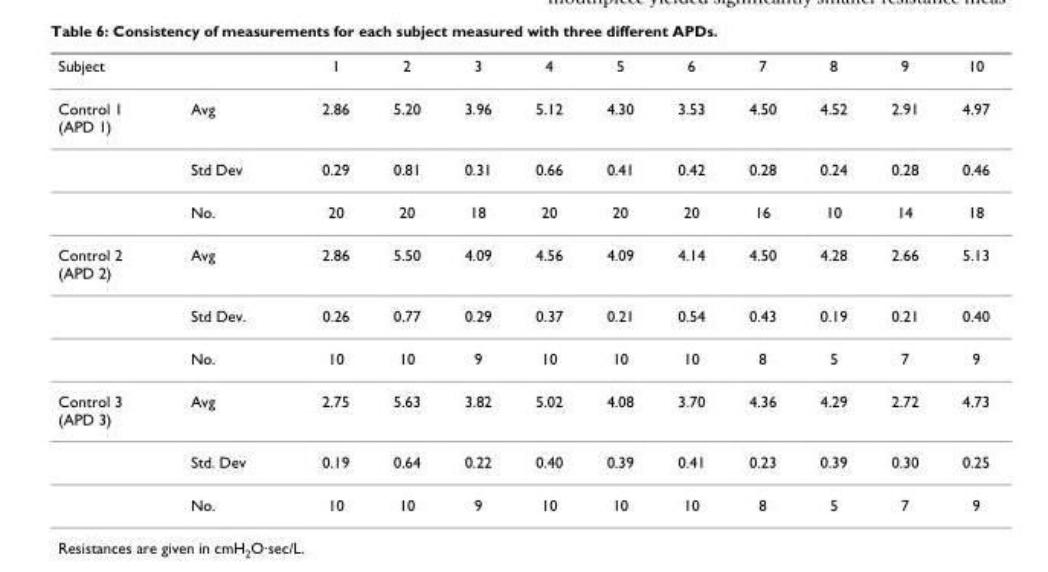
<table><thead><tr><td>Subject</td><td></td><td>1</td><td>2</td><td>3</td><td>4</td><td>5</td><td>6</td><td>7</td><td>8</td><td>9</td><td>10</td></tr></thead><tbody><tr><td rowspan="3">Control 1 (APD 1)</td><td>Avg</td><td>2.86</td><td>5.20</td><td>3.96</td><td>5.12</td><td>4.30</td><td>3.53</td><td>4.50</td><td>4.52</td><td>2.91</td><td>4.97</td></tr><tr><td>Std Dev</td><td>0.29</td><td>0.81</td><td>0.31</td><td>0.66</td><td>0.41</td><td>0.42</td><td>0.28</td><td>0.24</td><td>0.28</td><td>0.46</td></tr><tr><td>No.</td><td>20</td><td>20</td><td>18</td><td>20</td><td>20</td><td>20</td><td>16</td><td>10</td><td>14</td><td>18</td></tr><tr><td rowspan="3">Control 2 (APD 2)</td><td>Avg</td><td>2.86</td><td>5.50</td><td>4.09</td><td>4.56</td><td>4.09</td><td>4.14</td><td>4.50</td><td>4.28</td><td>2.66</td><td>5.13</td></tr><tr><td>Std Dev.</td><td>0.26</td><td>0.77</td><td>0.29</td><td>0.37</td><td>0.21</td><td>0.54</td><td>0.43</td><td>0.19</td><td>0.21</td><td>0.40</td></tr><tr><td>No.</td><td>10</td><td>10</td><td>9</td><td>10</td><td>10</td><td>10</td><td>8</td><td>5</td><td>7</td><td>9</td></tr><tr><td rowspan="3">Control 3 (APD 3)</td><td>Avg</td><td>2.75</td><td>5.63</td><td>3.82</td><td>5.02</td><td>4.08</td><td>3.70</td><td>4.36</td><td>4.29</td><td>2.72</td><td>4.73</td></tr><tr><td>Std. Dev</td><td>0.19</td><td>0.64</td><td>0.22</td><td>0.40</td><td>0.39</td><td>0.41</td><td>0.23</td><td>0.39</td><td>0.30</td><td>0.25</td></tr><tr><td>No.</td><td>10</td><td>10</td><td>9</td><td>10</td><td>10</td><td>10</td><td>8</td><td>5</td><td>7</td><td>9</td></tr></tbody></table>